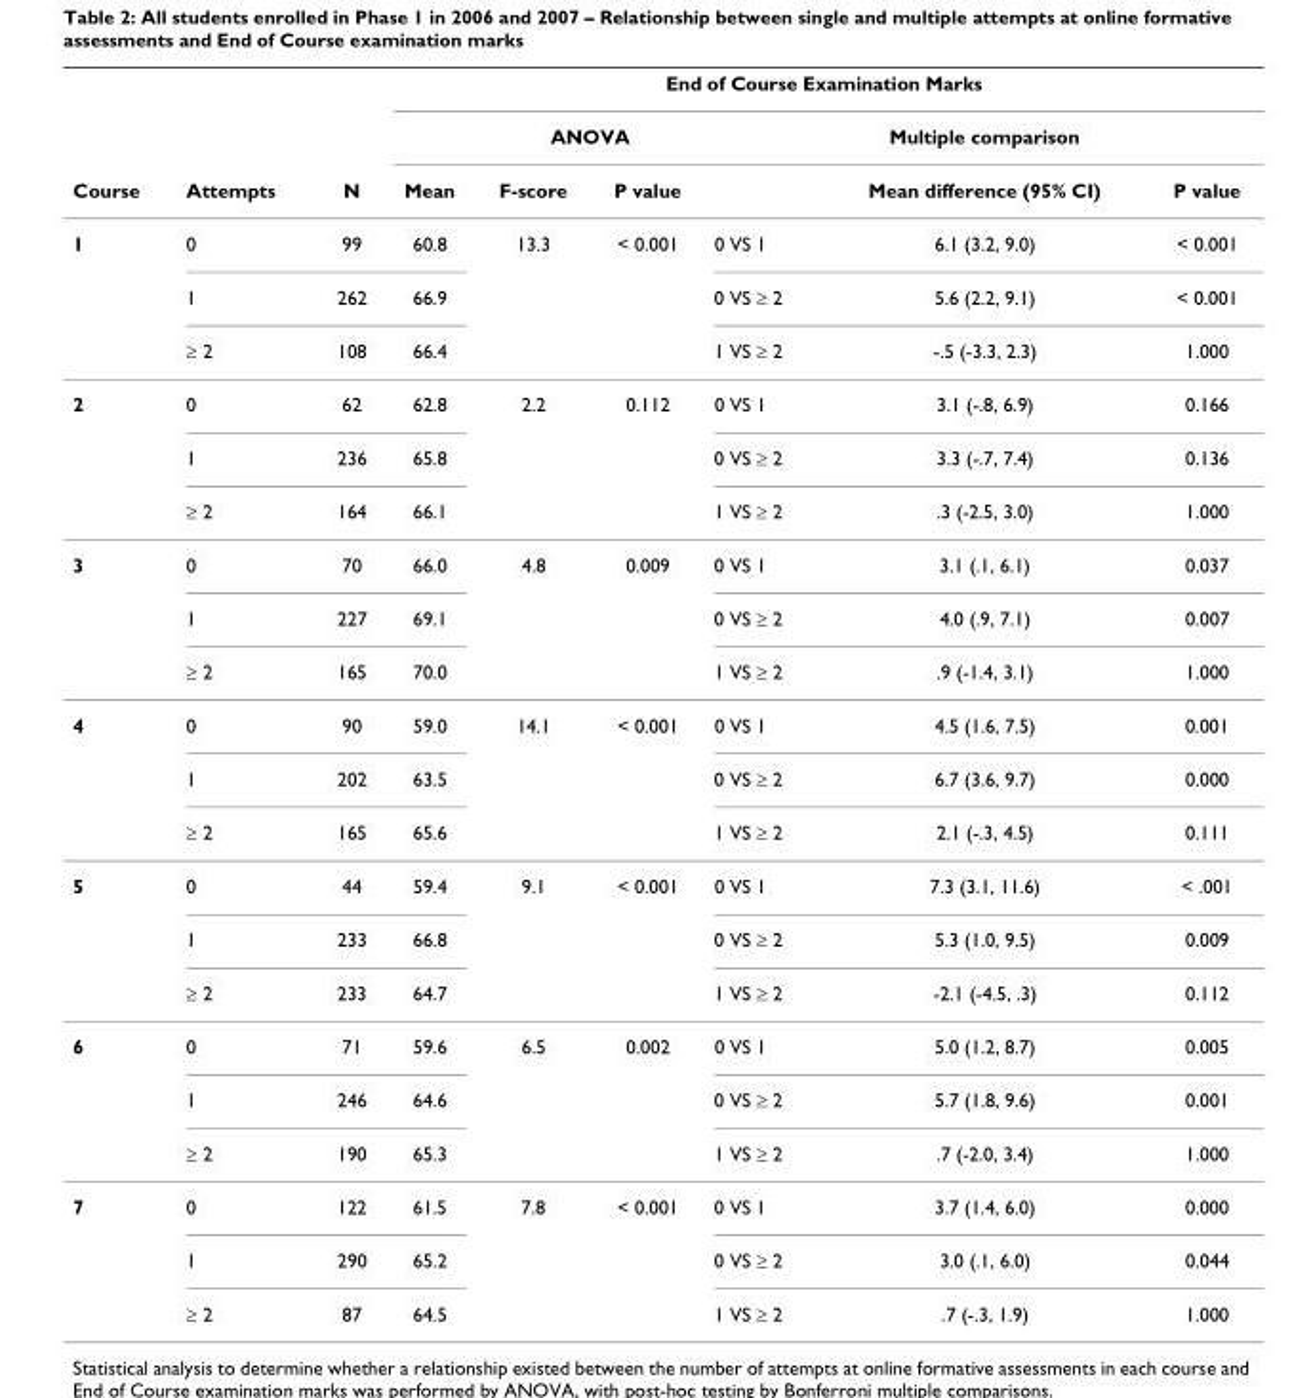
<table><thead><tr><td rowspan="3">Course</td><td rowspan="3">Attempts</td><td rowspan="3">N</td><td colspan="6">End of Course Examination Marks</td></tr><tr><td rowspan="2">Mean</td><td colspan="2">ANOVA</td><td colspan="3">Multiple comparison</td></tr><tr><td>F-score</td><td>P value</td><td></td><td>Mean difference (95% CI)</td><td>P value</td></tr></thead><tbody><tr><td rowspan="3">1</td><td>0</td><td>99</td><td>60.8</td><td>13.3</td><td>&lt; 0.001</td><td>0 VS 1</td><td>6.1 (3.2, 9.0)</td><td>&lt; 0.001</td></tr><tr><td>1</td><td>262</td><td>66.9</td><td></td><td></td><td>0 VS ≥ 2</td><td>5.6 (2.2, 9.1)</td><td>&lt; 0.001</td></tr><tr><td>≥ 2</td><td>108</td><td>66.4</td><td></td><td></td><td>1 VS ≥ 2</td><td>-.5 (-3.3, 2.3)</td><td>1.000</td></tr><tr><td rowspan="3">2</td><td>0</td><td>62</td><td>62.8</td><td>2.2</td><td>0.112</td><td>0 VS 1</td><td>3.1 (-.8, 6.9)</td><td>0.166</td></tr><tr><td>1</td><td>236</td><td>65.8</td><td></td><td></td><td>0 VS ≥ 2</td><td>3.3 (-.7, 7.4)</td><td>0.136</td></tr><tr><td>≥ 2</td><td>164</td><td>66.1</td><td></td><td></td><td>1 VS ≥ 2</td><td>.3 (-2.5, 3.0)</td><td>1.000</td></tr><tr><td rowspan="3">3</td><td>0</td><td>70</td><td>66.0</td><td>4.8</td><td>0.009</td><td>0 VS 1</td><td>3.1 (.1, 6.1)</td><td>0.037</td></tr><tr><td>1</td><td>227</td><td>69.1</td><td></td><td></td><td>0 VS ≥ 2</td><td>4.0 (.9, 7.1)</td><td>0.007</td></tr><tr><td>≥ 2</td><td>165</td><td>70.0</td><td></td><td></td><td>1 VS ≥ 2</td><td>.9 (-1.4, 3.1)</td><td>1.000</td></tr><tr><td rowspan="3">4</td><td>0</td><td>90</td><td>59.0</td><td>14.1</td><td>&lt; 0.001</td><td>0 VS 1</td><td>4.5 (1.6, 7.5)</td><td>0.001</td></tr><tr><td>1</td><td>202</td><td>63.5</td><td></td><td></td><td>0 VS ≥ 2</td><td>6.7 (3.6, 9.7)</td><td>0.000</td></tr><tr><td>≥ 2</td><td>165</td><td>65.6</td><td></td><td></td><td>1 VS ≥ 2</td><td>2.1 (-.3, 4.5)</td><td>0.111</td></tr><tr><td rowspan="3">5</td><td>0</td><td>44</td><td>59.4</td><td>9.1</td><td>&lt; 0.001</td><td>0 VS 1</td><td>7.3 (3.1, 11.6)</td><td>&lt; .001</td></tr><tr><td>1</td><td>233</td><td>66.8</td><td></td><td></td><td>0 VS ≥ 2</td><td>5.3 (1.0, 9.5)</td><td>0.009</td></tr><tr><td>≥ 2</td><td>233</td><td>64.7</td><td></td><td></td><td>1 VS ≥ 2</td><td>-2.1 (-4.5, .3)</td><td>0.112</td></tr><tr><td rowspan="3">6</td><td>0</td><td>71</td><td>59.6</td><td>6.5</td><td>0.002</td><td>0 VS 1</td><td>5.0 (1.2, 8.7)</td><td>0.005</td></tr><tr><td>1</td><td>246</td><td>64.6</td><td></td><td></td><td>0 VS ≥ 2</td><td>5.7 (1.8, 9.6)</td><td>0.001</td></tr><tr><td>≥ 2</td><td>190</td><td>65.3</td><td></td><td></td><td>1 VS ≥ 2</td><td>.7 (-2.0, 3.4)</td><td>1.000</td></tr><tr><td rowspan="3">7</td><td>0</td><td>122</td><td>61.5</td><td>7.8</td><td>&lt; 0.001</td><td>0 VS 1</td><td>3.7 (1.4, 6.0)</td><td>0.000</td></tr><tr><td>1</td><td>290</td><td>65.2</td><td></td><td></td><td>0 VS ≥ 2</td><td>3.0 (.1, 6.0)</td><td>0.044</td></tr><tr><td>≥ 2</td><td>87</td><td>64.5</td><td></td><td></td><td>1 VS ≥ 2</td><td>.7 (-.3, 1.9)</td><td>1.000</td></tr></tbody></table>